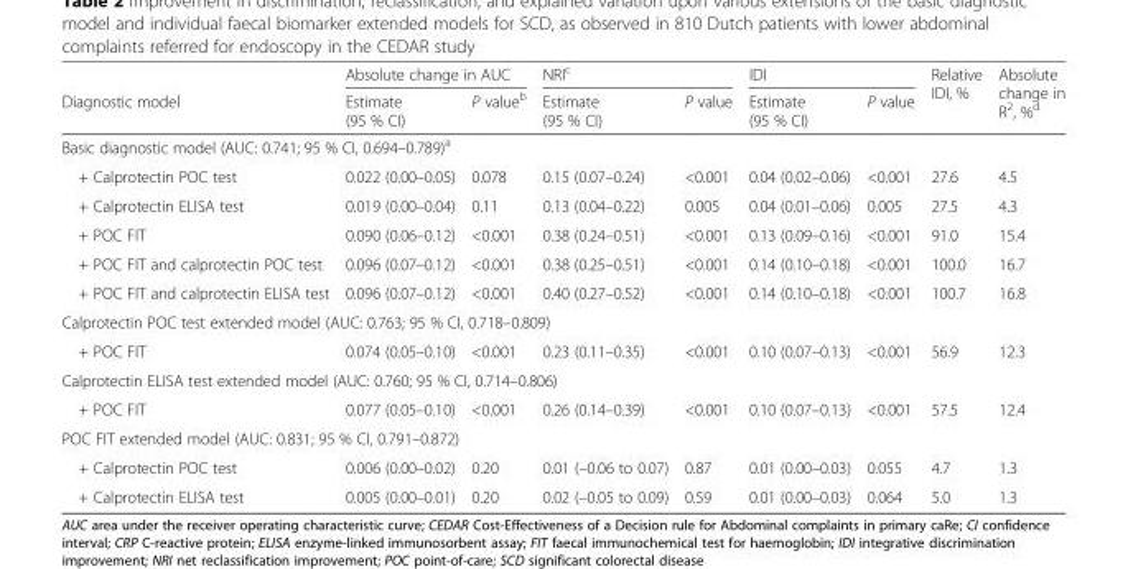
<table><thead><tr><td rowspan="2">Diagnostic model</td><td colspan="2">Absolute change in AUC</td><td colspan="2">NRI<sup>c</sup></td><td colspan="2">IDI</td><td rowspan="2">Relative IDI, %</td><td rowspan="2">Absolute change in R<sup>2</sup>, %<sup>d</sup></td></tr><tr><td>Estimate (95 % CI)</td><td>P value<sup>b</sup></td><td>Estimate (95 % CI)</td><td>P value</td><td>Estimate (95 % CI)</td><td>P value</td></tr></thead><tbody><tr><td colspan="9">Basic diagnostic model (AUC: 0.741; 95 % CI, 0.694–0.789)<sup>a</sup></td></tr><tr><td>+ Calprotectin POC test</td><td>0.022 (0.00–0.05)</td><td>0.078</td><td>0.15 (0.07–0.24)</td><td>&lt;0.001</td><td>0.04 (0.02–0.06)</td><td>&lt;0.001</td><td>27.6</td><td>4.5</td></tr><tr><td>+ Calprotectin ELISA test</td><td>0.019 (0.00–0.04)</td><td>0.11</td><td>0.13 (0.04–0.22)</td><td>0.005</td><td>0.04 (0.01–0.06)</td><td>0.005</td><td>27.5</td><td>4.3</td></tr><tr><td>+ POC FIT</td><td>0.090 (0.06–0.12)</td><td>&lt;0.001</td><td>0.38 (0.24–0.51)</td><td>&lt;0.001</td><td>0.13 (0.09–0.16)</td><td>&lt;0.001</td><td>91.0</td><td>15.4</td></tr><tr><td>+ POC FIT and calprotectin POC test</td><td>0.096 (0.07–0.12)</td><td>&lt;0.001</td><td>0.38 (0.25–0.51)</td><td>&lt;0.001</td><td>0.14 (0.10–0.18)</td><td>&lt;0.001</td><td>100.0</td><td>16.7</td></tr><tr><td>+ POC FIT and calprotectin ELISA test</td><td>0.096 (0.07–0.12)</td><td>&lt;0.001</td><td>0.40 (0.27–0.52)</td><td>&lt;0.001</td><td>0.14 (0.10–0.18)</td><td>&lt;0.001</td><td>100.7</td><td>16.8</td></tr><tr><td colspan="9">Calprotectin POC test extended model (AUC: 0.763; 95 % CI, 0.718–0.809)</td></tr><tr><td>+ POC FIT</td><td>0.074 (0.05–0.10)</td><td>&lt;0.001</td><td>0.23 (0.11–0.35)</td><td>&lt;0.001</td><td>0.10 (0.07–0.13)</td><td>&lt;0.001</td><td>56.9</td><td>12.3</td></tr><tr><td colspan="9">Calprotectin ELISA test extended model (AUC: 0.760; 95 % CI, 0.714–0.806)</td></tr><tr><td>+ POC FIT</td><td>0.077 (0.05–0.10)</td><td>&lt;0.001</td><td>0.26 (0.14–0.39)</td><td>&lt;0.001</td><td>0.10 (0.07–0.13)</td><td>&lt;0.001</td><td>57.5</td><td>12.4</td></tr><tr><td colspan="9">POC FIT extended model (AUC: 0.831; 95 % CI, 0.791–0.872)</td></tr><tr><td>+ Calprotectin POC test</td><td>0.006 (0.00–0.02)</td><td>0.20</td><td>0.01 (–0.06 to 0.07)</td><td>0.87</td><td>0.01 (0.00–0.03)</td><td>0.055</td><td>4.7</td><td>1.3</td></tr><tr><td>+ Calprotectin ELISA test</td><td>0.005 (0.00–0.01)</td><td>0.20</td><td>0.02 (–0.05 to 0.09)</td><td>0.59</td><td>0.01 (0.00–0.03)</td><td>0.064</td><td>5.0</td><td>1.3</td></tr></tbody></table>